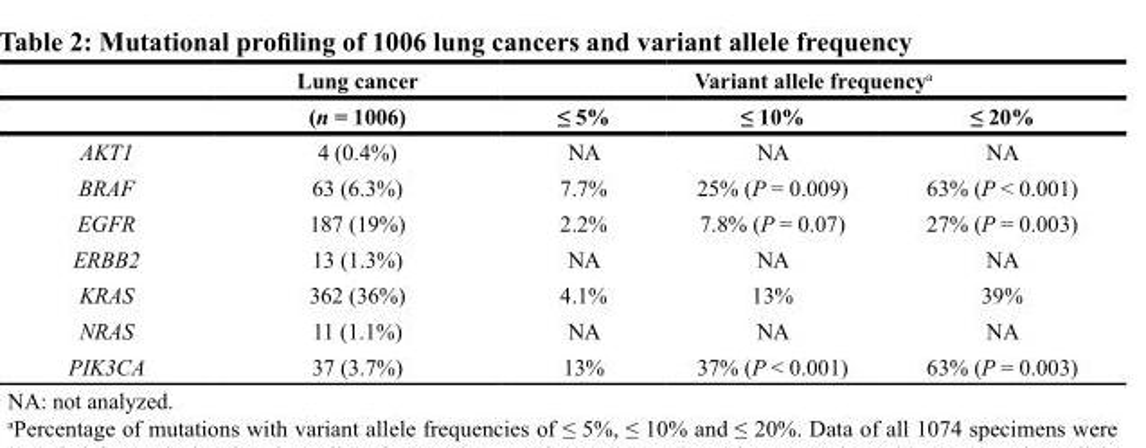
<table><thead><tr><td rowspan="2"></td><td rowspan="2">Lung cancer (n = 1006)</td><td colspan="3">Variant allele frequency<sup>a</sup></td></tr><tr><td>≤ 5%</td><td>≤ 10%</td><td>≤ 20%</td></tr></thead><tbody><tr><td>AKT1</td><td>4 (0.4%)</td><td>NA</td><td>NA</td><td>NA</td></tr><tr><td>BRAF</td><td>63 (6.3%)</td><td>7.7%</td><td>25% (P = 0.009)</td><td>63% (P &lt; 0.001)</td></tr><tr><td>EGFR</td><td>187 (19%)</td><td>2.2%</td><td>7.8% (P = 0.07)</td><td>27% (P = 0.003)</td></tr><tr><td>ERBB2</td><td>13 (1.3%)</td><td>NA</td><td>NA</td><td>NA</td></tr><tr><td>KRAS</td><td>362 (36%)</td><td>4.1%</td><td>13%</td><td>39%</td></tr><tr><td>NRAS</td><td>11 (1.1%)</td><td>NA</td><td>NA</td><td>NA</td></tr><tr><td>PIK3CA</td><td>37 (3.7%)</td><td>13%</td><td>37% (P &lt; 0.001)</td><td>63% (P = 0.003)</td></tr></tbody></table>